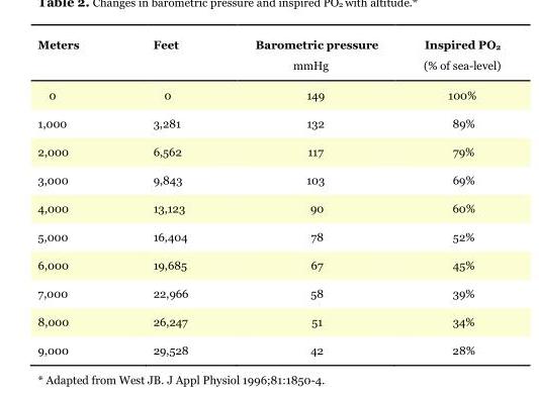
<table><thead><tr><td>Meters</td><td>Feet</td><td>Barometric pressure mmHg</td><td>Inspired PO<sub>2</sub> (% of sea-level)</td></tr></thead><tbody><tr><td>0</td><td>0</td><td>149</td><td>100%</td></tr><tr><td>1,000</td><td>3,281</td><td>132</td><td>89%</td></tr><tr><td>2,000</td><td>6,562</td><td>117</td><td>79%</td></tr><tr><td>3,000</td><td>9,843</td><td>103</td><td>69%</td></tr><tr><td>4,000</td><td>13,123</td><td>90</td><td>60%</td></tr><tr><td>5,000</td><td>16,404</td><td>78</td><td>52%</td></tr><tr><td>6,000</td><td>19,685</td><td>67</td><td>45%</td></tr><tr><td>7,000</td><td>22,966</td><td>58</td><td>39%</td></tr><tr><td>8,000</td><td>26,247</td><td>51</td><td>34%</td></tr><tr><td>9,000</td><td>29,528</td><td>42</td><td>28%</td></tr></tbody></table>